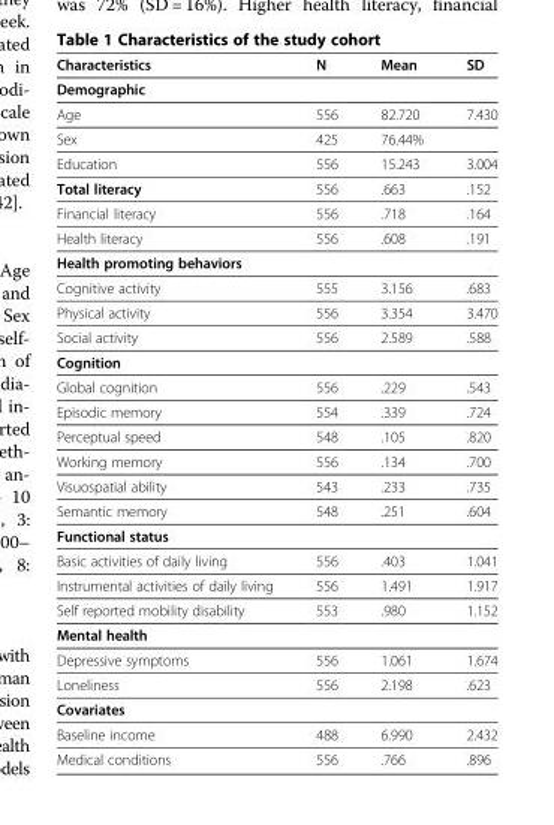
<table><thead><tr><td>Characteristics</td><td>N</td><td>Mean</td><td>SD</td></tr></thead><tbody><tr><td colspan="4">Demographic</td></tr><tr><td>Age</td><td>556</td><td>82.720</td><td>7.430</td></tr><tr><td>Sex</td><td>425</td><td>76.44%</td><td></td></tr><tr><td>Education</td><td>556</td><td>15.243</td><td>3.004</td></tr><tr><td>Total literacy</td><td>556</td><td>.663</td><td>.152</td></tr><tr><td>Financial literacy</td><td>556</td><td>.718</td><td>.164</td></tr><tr><td>Health literacy</td><td>556</td><td>.608</td><td>.191</td></tr><tr><td colspan="4">Health promoting behaviors</td></tr><tr><td>Cognitive activity</td><td>555</td><td>3.156</td><td>.683</td></tr><tr><td>Physical activity</td><td>556</td><td>3.354</td><td>3.470</td></tr><tr><td>Social activity</td><td>556</td><td>2.589</td><td>.588</td></tr><tr><td colspan="4">Cognition</td></tr><tr><td>Global cognition</td><td>556</td><td>.229</td><td>.543</td></tr><tr><td>Episodic memory</td><td>554</td><td>.339</td><td>.724</td></tr><tr><td>Perceptual speed</td><td>548</td><td>.105</td><td>.820</td></tr><tr><td>Working memory</td><td>556</td><td>.134</td><td>.700</td></tr><tr><td>Visuospatial ability</td><td>543</td><td>.233</td><td>.735</td></tr><tr><td>Semantic memory</td><td>548</td><td>.251</td><td>.604</td></tr><tr><td colspan="4">Functional status</td></tr><tr><td>Basic activities of daily living</td><td>556</td><td>.403</td><td>1.041</td></tr><tr><td>Instrumental activities of daily living</td><td>556</td><td>1.491</td><td>1.917</td></tr><tr><td>Self reported mobility disability</td><td>553</td><td>.980</td><td>1.152</td></tr><tr><td colspan="4">Mental health</td></tr><tr><td>Depressive symptoms</td><td>556</td><td>1.061</td><td>1.674</td></tr><tr><td>Loneliness</td><td>556</td><td>2.198</td><td>.623</td></tr><tr><td colspan="4">Covariates</td></tr><tr><td>Baseline income</td><td>488</td><td>6.990</td><td>2.432</td></tr><tr><td>Medical conditions</td><td>556</td><td>.766</td><td>.896</td></tr></tbody></table>